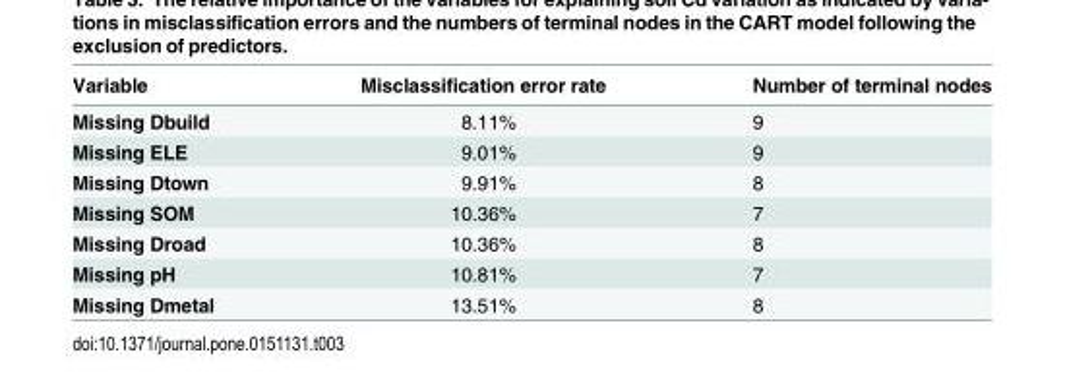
<table><thead><tr><td>Variable</td><td>Misclassification error rate</td><td>Number of terminal nodes</td></tr></thead><tbody><tr><td>Missing Dbuild</td><td>8.11%</td><td>9</td></tr><tr><td>Missing ELE</td><td>9.01%</td><td>9</td></tr><tr><td>Missing Dtown</td><td>9.91%</td><td>8</td></tr><tr><td>Missing SOM</td><td>10.36%</td><td>7</td></tr><tr><td>Missing Droad</td><td>10.36%</td><td>8</td></tr><tr><td>Missing pH</td><td>10.81%</td><td>7</td></tr><tr><td>Missing Dmetal</td><td>13.51%</td><td>8</td></tr></tbody></table>